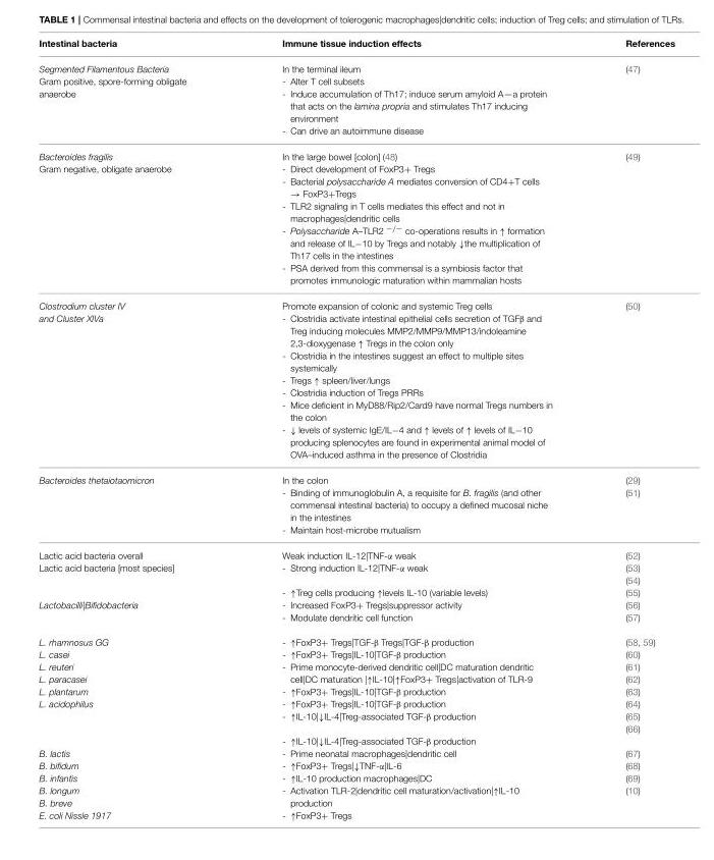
<table><thead><tr><td>Intestinal bacteria</td><td>Immune tissue induction effects</td><td>References</td></tr></thead><tbody><tr><td>Segmented Filamentous Bacteria Gram positive, spore-forming obligate anaerobe</td><td>In the terminal ileum - Alter T cell subsets - Induce accumulation of Th17; induce serum amyloid A—a protein that acts on the lamina propria and stimulates Th17 inducing environment - Can drive an autoimmune disease</td><td>(47)</td></tr><tr><td>Bacteroides fragilis Gram negative, obligate anaerobe</td><td>In the large bowel [colon] (48) - Direct development of FoxP3+ Tregs - Bacterial polysaccharide A mediates conversion of CD4+T cells → FoxP3+Tregs - TLR2 signaling in T cells mediates this effect and not in macrophages|dendritic cells - Polysaccharide A–TLR2 <sup>−/−</sup> co-operations results in ↑ formation and release of IL−10 by Tregs and notably ↓the multiplication of Th17 cells in the intestines - PSA derived from this commensal is a symbiosis factor that promotes immunologic maturation within mammalian hosts</td><td>(49)</td></tr><tr><td>Clostrodium cluster IV and Cluster XIVa</td><td>Promote expansion of colonic and systemic Treg cells - Clostridia activate intestinal epithelial cells secretion of TGFβ and Treg inducing molecules MMP2/MMP9/MMP13/indoleamine 2,3-dioxygenase ↑ Tregs in the colon only - Clostridia in the intestines suggest an effect to multiple sites systemically - Tregs ↑ spleen/liver/lungs - Clostridia induction of Tregs PRRs - Mice deficient in MyD88/Rip2/Card9 have normal Tregs numbers in the colon - ↓ levels of systemic IgE/IL−4 and ↑ levels of ↑ levels of IL−10 producing splenocytes are found in experimental animal model of OVA–induced asthma in the presence of Clostridia</td><td>(50)</td></tr><tr><td>Bacteroides thetaiotaomicron</td><td>In the colon - Binding of immunoglobulin A, a requisite for B. fragilis (and other commensal intestinal bacteria) to occupy a defined mucosal niche in the intestines - Maintain host-microbe mutualism</td><td>(29) (51)</td></tr><tr><td>Lactic acid bacteria overall Lactic acid bacteria [most species] Lactobacilli|Bifidobacteria L. rhamnosus GG L. casei L. reuteri L. paracasei L. plantarum L. acidophilus B. lactis B. bifidum B. infantis B. longum B. breve E. coli Nissle 1917</td><td>Weak induction IL-12|TNF-α weak - Strong induction IL-12|TNF-α weak - ↑Treg cells producing ↑levels IL-10 (variable levels) - Increased FoxP3+ Tregs|suppressor activity - Modulate dendritic cell function - ↑FoxP3+ Tregs|TGF-β Tregs|TGF-β production - ↑FoxP3+ Tregs|IL-10|TGF-β production - Prime monocyte-derived dendritic cell|DC maturation dendritic cell|DC maturation |↑IL-10|↑FoxP3+ Tregs|activation of TLR-9 - ↑FoxP3+ Tregs|IL-10|TGF-β production - ↑FoxP3+ Tregs|IL-10|TGF-β production - ↑IL-10|↓IL-4|Treg-associated TGF-β production - ↑IL-10|↓IL-4|Treg-associated TGF-β production - Prime neonatal macrophages|dendritic cell - ↑FoxP3+ Tregs|↓TNF-α|IL-6 - ↑IL-10 production macrophages|DC - Activation TLR-2|dendritic cell maturation/activation|↑IL-10 production - ↑FoxP3+ Tregs</td><td>(52) (53) (54) (55) (56) (57) (58, 59) (60) (61) (62) (63) (64) (65) (66) (67) (68) (69) (10)</td></tr></tbody></table>